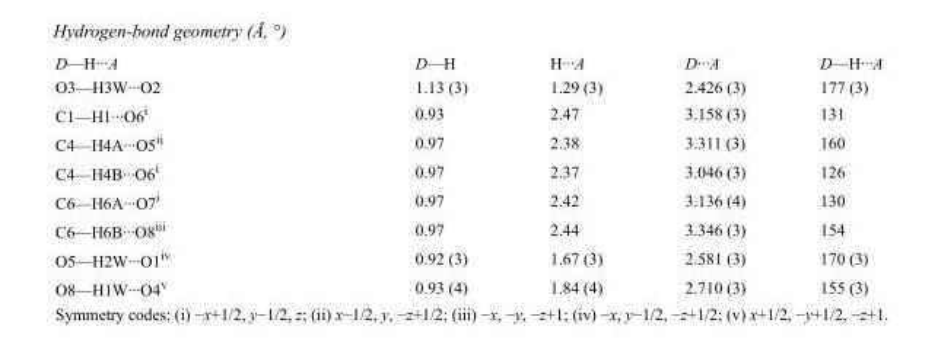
<table><tbody><tr><td>D—H···A</td><td>D—H</td><td>H···A</td><td>D···A</td><td>D—H···A</td></tr><tr><td>O3—H3W···O2</td><td>1.13 (3)</td><td>1.29 (3)</td><td>2.426 (3)</td><td>177 (3)</td></tr><tr><td>C1—H1···O6<sup>i</sup></td><td>0.93</td><td>2.47</td><td>3.158 (3)</td><td>131</td></tr><tr><td>C4—H4A···O5<sup>ii</sup></td><td>0.97</td><td>2.38</td><td>3.311 (3)</td><td>160</td></tr><tr><td>C4—H4B···O6<sup>i</sup></td><td>0.97</td><td>2.37</td><td>3.046 (3)</td><td>126</td></tr><tr><td>C6—H6A···O7<sup>i</sup></td><td>0.97</td><td>2.42</td><td>3.136 (4)</td><td>130</td></tr><tr><td>C6—H6B···O8<sup>iii</sup></td><td>0.97</td><td>2.44</td><td>3.346 (3)</td><td>154</td></tr><tr><td>O5—H2W···O1<sup>iv</sup></td><td>0.92 (3)</td><td>1.67 (3)</td><td>2.581 (3)</td><td>170 (3)</td></tr><tr><td>O8—H1W···O4<sup>v</sup></td><td>0.93 (4)</td><td>1.84 (4)</td><td>2.710 (3)</td><td>155 (3)</td></tr></tbody></table>